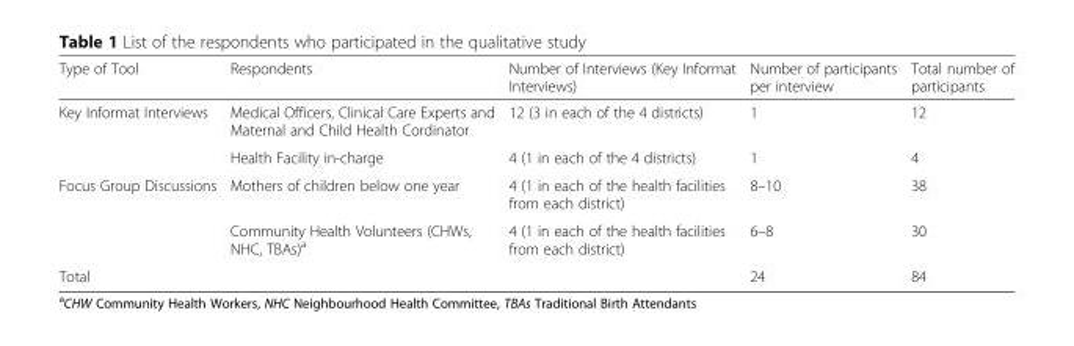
<table><thead><tr><td>Type of Tool</td><td>Respondents</td><td>Number of Interviews (Key Informat Interviews)</td><td>Number of participants per interview</td><td>Total number of participants</td></tr></thead><tbody><tr><td rowspan="2">Key Informat Interviews</td><td>Medical Officers, Clinical Care Experts and Maternal and Child Health Cordinator</td><td>12 (3 in each of the 4 districts)</td><td>1</td><td>12</td></tr><tr><td>Health Facility in-charge</td><td>4 (1 in each of the 4 districts)</td><td>1</td><td>4</td></tr><tr><td rowspan="2">Focus Group Discussions</td><td>Mothers of children below one year</td><td>4 (1 in each of the health facilities from each district)</td><td>8–10</td><td>38</td></tr><tr><td>Community Health Volunteers (CHWs, NHC, TBAs)<sup>a</sup></td><td>4 (1 in each of the health facilities from each district)</td><td>6–8</td><td>30</td></tr><tr><td colspan="3">Total</td><td>24</td><td>84</td></tr></tbody></table>